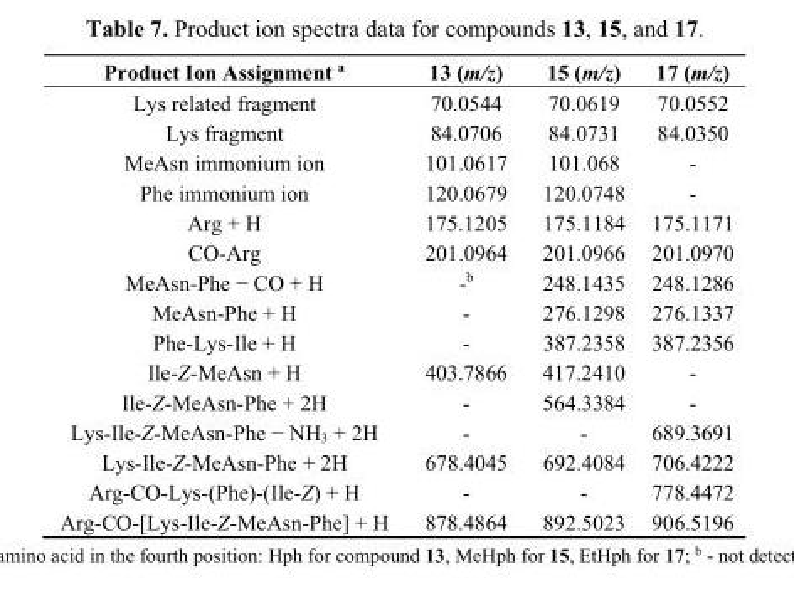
<table><thead><tr><td>Product Ion Assignment <sup>a</sup></td><td>13 (m/z)</td><td>15 (m/z)</td><td>17 (m/z)</td></tr></thead><tbody><tr><td>Lys related fragment</td><td>70.0544</td><td>70.0619</td><td>70.0552</td></tr><tr><td>Lys fragment</td><td>84.0706</td><td>84.0731</td><td>84.0350</td></tr><tr><td>MeAsn immonium ion</td><td>101.0617</td><td>101.068</td><td>-</td></tr><tr><td>Phe immonium ion</td><td>120.0679</td><td>120.0748</td><td>-</td></tr><tr><td>Arg + H</td><td>175.1205</td><td>175.1184</td><td>175.1171</td></tr><tr><td>CO-Arg</td><td>201.0964</td><td>201.0966</td><td>201.0970</td></tr><tr><td>MeAsn-Phe − CO + H</td><td>-<sup>b</sup></td><td>248.1435</td><td>248.1286</td></tr><tr><td>MeAsn-Phe + H</td><td>-</td><td>276.1298</td><td>276.1337</td></tr><tr><td>Phe-Lys-Ile + H</td><td>-</td><td>387.2358</td><td>387.2356</td></tr><tr><td>Ile-Z-MeAsn + H</td><td>403.7866</td><td>417.2410</td><td>-</td></tr><tr><td>Ile-Z-MeAsn-Phe + 2H</td><td>-</td><td>564.3384</td><td>-</td></tr><tr><td>Lys-Ile-Z-MeAsn-Phe − NH<sub>3</sub> + 2H</td><td>-</td><td>-</td><td>689.3691</td></tr><tr><td>Lys-Ile-Z-MeAsn-Phe + 2H</td><td>678.4045</td><td>692.4084</td><td>706.4222</td></tr><tr><td>Arg-CO-Lys-(Phe)-(Ile-Z) + H</td><td>-</td><td>-</td><td>778.4472</td></tr><tr><td>Arg-CO-[Lys-Ile-Z-MeAsn-Phe] + H</td><td>878.4864</td><td>892.5023</td><td>906.5196</td></tr></tbody></table>